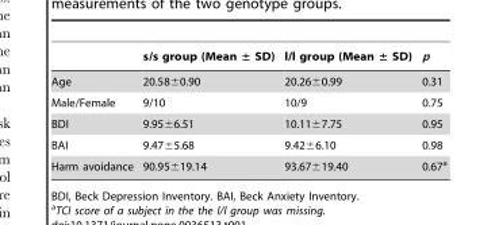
<table><thead><tr><td></td><td>s/s group (Mean ± SD)</td><td>l/l group (Mean ± SD)</td><td>p</td></tr></thead><tbody><tr><td>Age</td><td>20.58±0.90</td><td>20.26±0.99</td><td>0.31</td></tr><tr><td>Male/Female</td><td>9/10</td><td>10/9</td><td>0.75</td></tr><tr><td>BDI</td><td>9.95±6.51</td><td>10.11±7.75</td><td>0.95</td></tr><tr><td>BAI</td><td>9.47±5.68</td><td>9.42±6.10</td><td>0.98</td></tr><tr><td>Harm avoidance</td><td>90.95±19.14</td><td>93.67±19.40</td><td>0.67<sup>a</sup></td></tr></tbody></table>